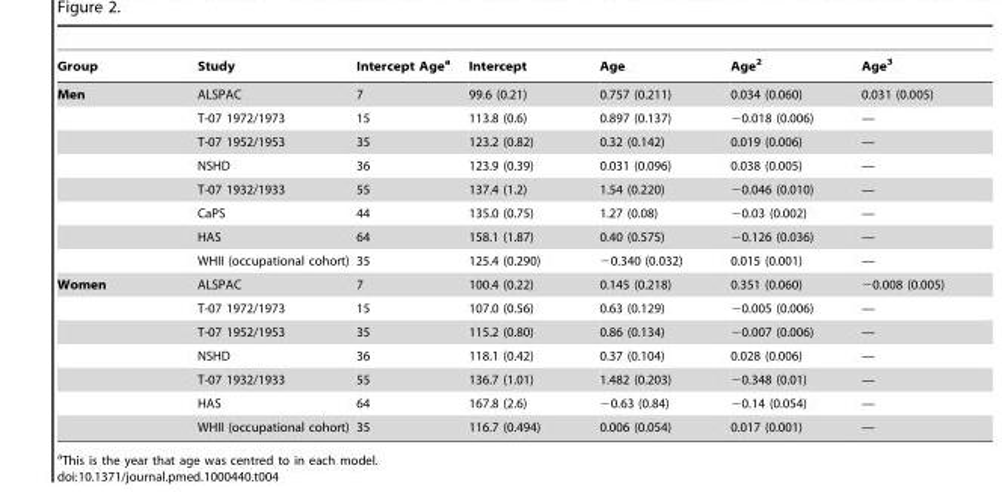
<table><thead><tr><td>Group</td><td>Study</td><td>Intercept Age<sup>a</sup></td><td>Intercept</td><td>Age</td><td>Age<sup>2</sup></td><td>Age<sup>3</sup></td></tr></thead><tbody><tr><td rowspan="8">Men</td><td>ALSPAC</td><td>7</td><td>99.6 (0.21)</td><td>0.757 (0.211)</td><td>0.034 (0.060)</td><td>0.031 (0.005)</td></tr><tr><td>T-07 1972/1973</td><td>15</td><td>113.8 (0.6)</td><td>0.897 (0.137)</td><td>−0.018 (0.006)</td><td>—</td></tr><tr><td>T-07 1952/1953</td><td>35</td><td>123.2 (0.82)</td><td>0.32 (0.142)</td><td>0.019 (0.006)</td><td>—</td></tr><tr><td>NSHD</td><td>36</td><td>123.9 (0.39)</td><td>0.031 (0.096)</td><td>0.038 (0.005)</td><td>—</td></tr><tr><td>T-07 1932/1933</td><td>55</td><td>137.4 (1.2)</td><td>1.54 (0.220)</td><td>−0.046 (0.010)</td><td>—</td></tr><tr><td>CaPS</td><td>44</td><td>135.0 (0.75)</td><td>1.27 (0.08)</td><td>−0.03 (0.002)</td><td>—</td></tr><tr><td>HAS</td><td>64</td><td>158.1 (1.87)</td><td>0.40 (0.575)</td><td>−0.126 (0.036)</td><td>—</td></tr><tr><td>WHII (occupational cohort)</td><td>35</td><td>125.4 (0.290)</td><td>−0.340 (0.032)</td><td>0.015 (0.001)</td><td>—</td></tr><tr><td rowspan="7">Women</td><td>ALSPAC</td><td>7</td><td>100.4 (0.22)</td><td>0.145 (0.218)</td><td>0.351 (0.060)</td><td>−0.008 (0.005)</td></tr><tr><td>T-07 1972/1973</td><td>15</td><td>107.0 (0.56)</td><td>0.63 (0.129)</td><td>−0.005 (0.006)</td><td>—</td></tr><tr><td>T-07 1952/1953</td><td>35</td><td>115.2 (0.80)</td><td>0.86 (0.134)</td><td>−0.007 (0.006)</td><td>—</td></tr><tr><td>NSHD</td><td>36</td><td>118.1 (0.42)</td><td>0.37 (0.104)</td><td>0.028 (0.006)</td><td>—</td></tr><tr><td>T-07 1932/1933</td><td>55</td><td>136.7 (1.01)</td><td>1.482 (0.203)</td><td>−0.348 (0.01)</td><td>—</td></tr><tr><td>HAS</td><td>64</td><td>167.8 (2.6)</td><td>−0.63 (0.84)</td><td>−0.14 (0.054)</td><td>—</td></tr><tr><td>WHII (occupational cohort)</td><td>35</td><td>116.7 (0.494)</td><td>0.006 (0.054)</td><td>0.017 (0.001)</td><td>—</td></tr></tbody></table>